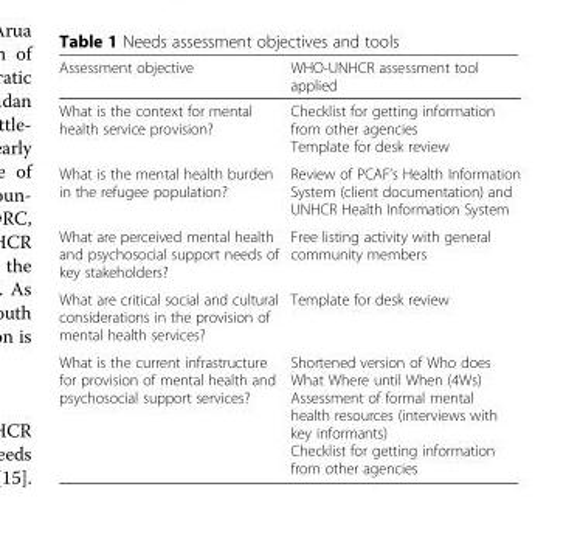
<table><thead><tr><td>Assessment objective</td><td>WHO-UNHCR assessment tool applied</td></tr></thead><tbody><tr><td>What is the context for mental health service provision?</td><td>Checklist for getting information from other agencies Template for desk review</td></tr><tr><td>What is the mental health burden in the refugee population?</td><td>Review of PCAF’s Health Information System (client documentation) and UNHCR Health Information System</td></tr><tr><td>What are perceived mental health and psychosocial support needs of key stakeholders?</td><td>Free listing activity with general community members</td></tr><tr><td>What are critical social and cultural considerations in the provision of mental health services?</td><td>Template for desk review</td></tr><tr><td>What is the current infrastructure for provision of mental health and psychosocial support services?</td><td>Shortened version of Who does What Where until When (4Ws) Assessment of formal mental health resources (interviews with key informants) Checklist for getting information from other agencies</td></tr></tbody></table>